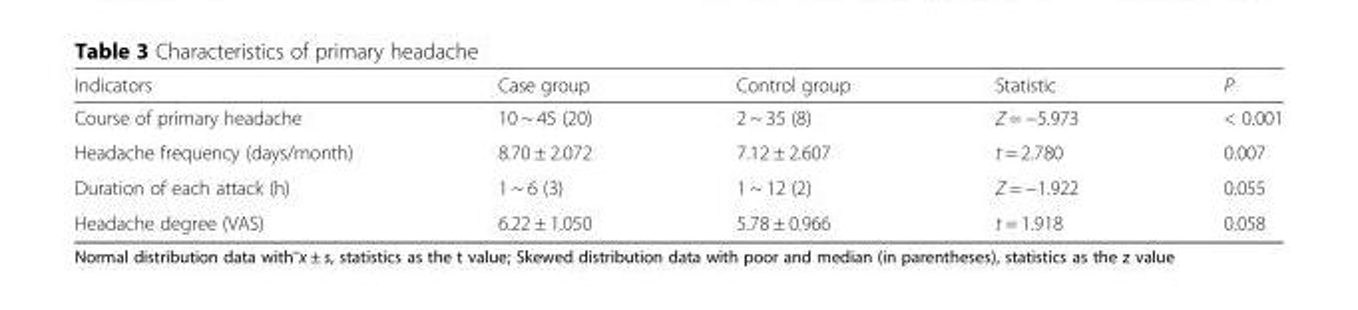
<table><thead><tr><td>Indicators</td><td>Case group</td><td>Control group</td><td>Statistic</td><td>P</td></tr></thead><tbody><tr><td>Course of primary headache</td><td>10 ~ 45 (20)</td><td>2 ~ 35 (8)</td><td>Z = −5.973</td><td>&lt; 0.001</td></tr><tr><td>Headache frequency (days/month)</td><td>8.70 ± 2.072</td><td>7.12 ± 2.607</td><td>t = 2.780</td><td>0.007</td></tr><tr><td>Duration of each attack (h)</td><td>1 ~ 6 (3)</td><td>1 ~ 12 (2)</td><td>Z = −1.922</td><td>0.055</td></tr><tr><td>Headache degree (VAS)</td><td>6.22 ± 1.050</td><td>5.78 ± 0.966</td><td>t = 1.918</td><td>0.058</td></tr></tbody></table>